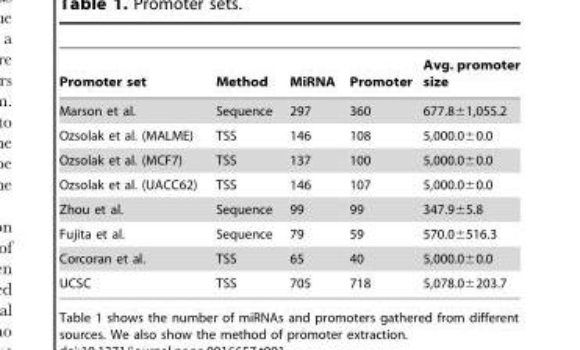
<table><thead><tr><td>Promoter set</td><td>Method</td><td>MiRNA</td><td>Promoter</td><td>Avg. promoter size</td></tr></thead><tbody><tr><td>Marson et al.</td><td>Sequence</td><td>297</td><td>360</td><td>677.8±1,055.2</td></tr><tr><td>Ozsolak et al. (MALME)</td><td>TSS</td><td>146</td><td>108</td><td>5,000.0±0.0</td></tr><tr><td>Ozsolak et al. (MCF7)</td><td>TSS</td><td>137</td><td>100</td><td>5,000.0±0.0</td></tr><tr><td>Ozsolak et al. (UACC62)</td><td>TSS</td><td>146</td><td>107</td><td>5,000.0±0.0</td></tr><tr><td>Zhou et al.</td><td>Sequence</td><td>99</td><td>99</td><td>347.9±5.8</td></tr><tr><td>Fujita et al.</td><td>Sequence</td><td>79</td><td>59</td><td>570.0±516.3</td></tr><tr><td>Corcoran et al.</td><td>TSS</td><td>65</td><td>40</td><td>5,000.0±0.0</td></tr><tr><td>UCSC</td><td>TSS</td><td>705</td><td>718</td><td>5,078.0±203.7</td></tr></tbody></table>